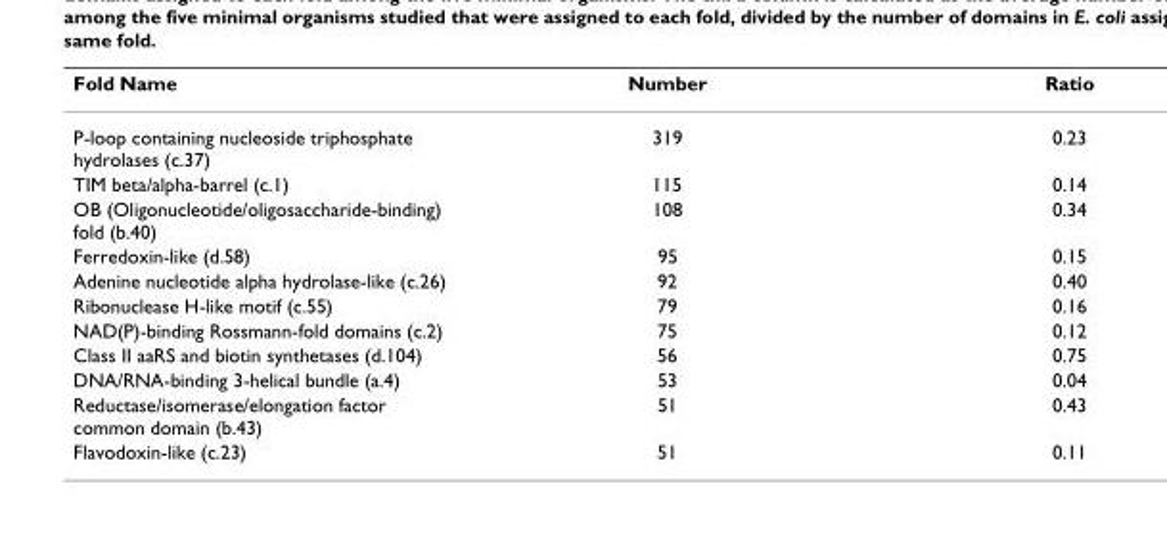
<table><thead><tr><td>Fold Name</td><td>Number</td><td>Ratio</td></tr></thead><tbody><tr><td>P-loop containing nucleoside triphosphate hydrolases (c.37)</td><td>319</td><td>0.23</td></tr><tr><td>TIM beta/alpha-barrel (c.1)</td><td>115</td><td>0.14</td></tr><tr><td>OB (Oligonucleotide/oligosaccharide-binding) fold (b.40)</td><td>108</td><td>0.34</td></tr><tr><td>Ferredoxin-like (d.58)</td><td>95</td><td>0.15</td></tr><tr><td>Adenine nucleotide alpha hydrolase-like (c.26)</td><td>92</td><td>0.40</td></tr><tr><td>Ribonuclease H-like motif (c.55)</td><td>79</td><td>0.16</td></tr><tr><td>NAD(P)-binding Rossmann-fold domains (c.2)</td><td>75</td><td>0.12</td></tr><tr><td>Class II aaRS and biotin synthetases (d.104)</td><td>56</td><td>0.75</td></tr><tr><td>DNA/RNA-binding 3-helical bundle (a.4)</td><td>53</td><td>0.04</td></tr><tr><td>Reductase/isomerase/elongation factor common domain (b.43)</td><td>51</td><td>0.43</td></tr><tr><td>Flavodoxin-like (c.23)</td><td>51</td><td>0.11</td></tr></tbody></table>